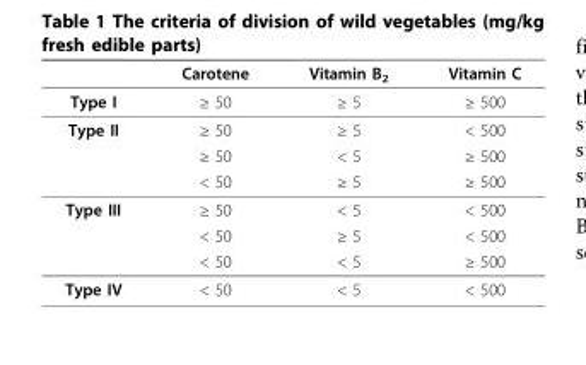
<table><thead><tr><td></td><td>Carotene</td><td>Vitamin B<sub>2</sub></td><td>Vitamin C</td></tr></thead><tbody><tr><td>Type I</td><td>≥ 50</td><td>≥ 5</td><td>≥ 500</td></tr><tr><td rowspan="3">Type II</td><td>≥ 50</td><td>≥ 5</td><td>&lt; 500</td></tr><tr><td>≥ 50</td><td>&lt; 5</td><td>≥ 500</td></tr><tr><td>&lt; 50</td><td>≥ 5</td><td>≥ 500</td></tr><tr><td rowspan="3">Type III</td><td>≥ 50</td><td>&lt; 5</td><td>&lt; 500</td></tr><tr><td>&lt; 50</td><td>≥ 5</td><td>&lt; 500</td></tr><tr><td>&lt; 50</td><td>&lt; 5</td><td>≥ 500</td></tr><tr><td>Type IV</td><td>&lt; 50</td><td>&lt; 5</td><td>&lt; 500</td></tr></tbody></table>